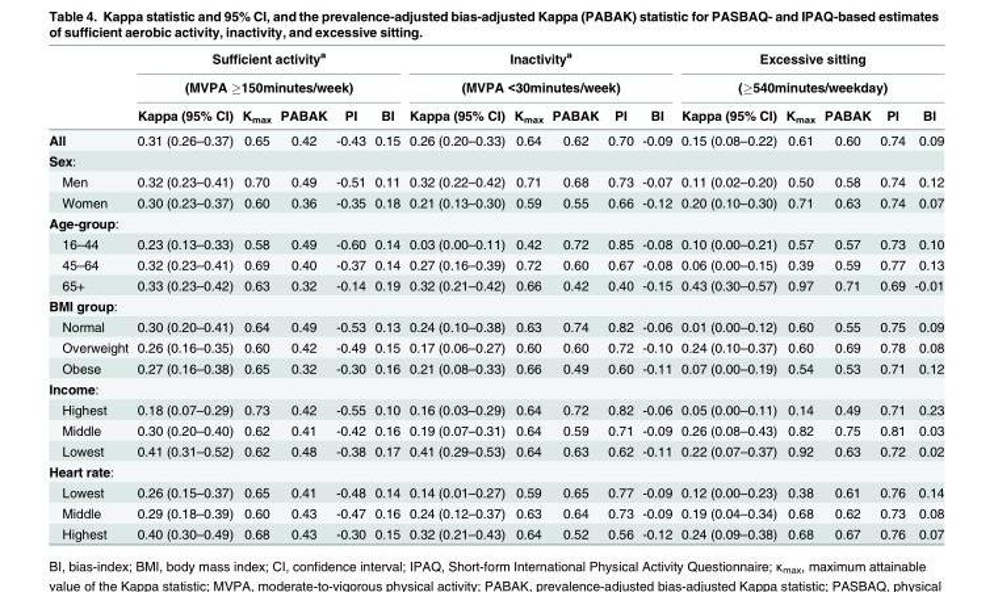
<table><thead><tr><td rowspan="3"></td><td rowspan="2" colspan="5">Sufficient activity<sup>a</sup> (MVPA ≥150minutes/week)</td><td rowspan="2" colspan="5">Inactivity<sup>a</sup> (MVPA &lt;30minutes/week)</td><td rowspan="2" colspan="5">Excessive sitting (≥540minutes/weekday)</td></tr><tr></tr><tr><td>Kappa (95% CI)</td><td>K<sub>max</sub></td><td>PABAK</td><td>PI</td><td>BI</td><td>Kappa (95% CI)</td><td>K<sub>max</sub></td><td>PABAK</td><td>PI</td><td>BI</td><td>Kappa (95% CI)</td><td>K<sub>max</sub></td><td>PABAK</td><td>PI</td><td>BI</td></tr></thead><tbody><tr><td>All</td><td>0.31 (0.26–0.37)</td><td>0.65</td><td>0.42</td><td>-0.43</td><td>0.15</td><td>0.26 (0.20–0.33)</td><td>0.64</td><td>0.62</td><td>0.70</td><td>-0.09</td><td>0.15 (0.08–0.22)</td><td>0.61</td><td>0.60</td><td>0.74</td><td>0.09</td></tr><tr><td colspan="16">Sex:</td></tr><tr><td>Men</td><td>0.32 (0.23–0.41)</td><td>0.70</td><td>0.49</td><td>-0.51</td><td>0.11</td><td>0.32 (0.22–0.42)</td><td>0.71</td><td>0.68</td><td>0.73</td><td>-0.07</td><td>0.11 (0.02–0.20)</td><td>0.50</td><td>0.58</td><td>0.74</td><td>0.12</td></tr><tr><td>Women</td><td>0.30 (0.23–0.37)</td><td>0.60</td><td>0.36</td><td>-0.35</td><td>0.18</td><td>0.21 (0.13–0.30)</td><td>0.59</td><td>0.55</td><td>0.66</td><td>-0.12</td><td>0.20 (0.10–0.30)</td><td>0.71</td><td>0.63</td><td>0.74</td><td>0.07</td></tr><tr><td colspan="16">Age-group:</td></tr><tr><td>16–44</td><td>0.23 (0.13–0.33)</td><td>0.58</td><td>0.49</td><td>-0.60</td><td>0.14</td><td>0.03 (0.00–0.11)</td><td>0.42</td><td>0.72</td><td>0.85</td><td>-0.08</td><td>0.10 (0.00–0.21)</td><td>0.57</td><td>0.57</td><td>0.73</td><td>0.10</td></tr><tr><td>45–64</td><td>0.32 (0.23–0.41)</td><td>0.69</td><td>0.40</td><td>-0.37</td><td>0.14</td><td>0.27 (0.16–0.39)</td><td>0.72</td><td>0.60</td><td>0.67</td><td>-0.08</td><td>0.06 (0.00–0.15)</td><td>0.39</td><td>0.59</td><td>0.77</td><td>0.13</td></tr><tr><td>65+</td><td>0.33 (0.23–0.42)</td><td>0.63</td><td>0.32</td><td>-0.14</td><td>0.19</td><td>0.32 (0.21–0.42)</td><td>0.66</td><td>0.42</td><td>0.40</td><td>-0.15</td><td>0.43 (0.30–0.57)</td><td>0.97</td><td>0.71</td><td>0.69</td><td>-0.01</td></tr><tr><td colspan="16">BMI group:</td></tr><tr><td>Normal</td><td>0.30 (0.20–0.41)</td><td>0.64</td><td>0.49</td><td>-0.53</td><td>0.13</td><td>0.24 (0.10–0.38)</td><td>0.63</td><td>0.74</td><td>0.82</td><td>-0.06</td><td>0.01 (0.00–0.12)</td><td>0.60</td><td>0.55</td><td>0.75</td><td>0.09</td></tr><tr><td>Overweight</td><td>0.26 (0.16–0.35)</td><td>0.60</td><td>0.42</td><td>-0.49</td><td>0.15</td><td>0.17 (0.06–0.27)</td><td>0.60</td><td>0.60</td><td>0.72</td><td>-0.10</td><td>0.24 (0.10–0.37)</td><td>0.60</td><td>0.69</td><td>0.78</td><td>0.08</td></tr><tr><td>Obese</td><td>0.27 (0.16–0.38)</td><td>0.65</td><td>0.32</td><td>-0.30</td><td>0.16</td><td>0.21 (0.08–0.33)</td><td>0.66</td><td>0.49</td><td>0.60</td><td>-0.11</td><td>0.07 (0.00–0.19)</td><td>0.54</td><td>0.53</td><td>0.71</td><td>0.12</td></tr><tr><td colspan="16">Income:</td></tr><tr><td>Highest</td><td>0.18 (0.07–0.29)</td><td>0.73</td><td>0.42</td><td>-0.55</td><td>0.10</td><td>0.16 (0.03–0.29)</td><td>0.64</td><td>0.72</td><td>0.82</td><td>-0.06</td><td>0.05 (0.00–0.11)</td><td>0.14</td><td>0.49</td><td>0.71</td><td>0.23</td></tr><tr><td>Middle</td><td>0.30 (0.20–0.40)</td><td>0.62</td><td>0.41</td><td>-0.42</td><td>0.16</td><td>0.19 (0.07–0.31)</td><td>0.64</td><td>0.59</td><td>0.71</td><td>-0.09</td><td>0.26 (0.08–0.43)</td><td>0.82</td><td>0.75</td><td>0.81</td><td>0.03</td></tr><tr><td>Lowest</td><td>0.41 (0.31–0.52)</td><td>0.62</td><td>0.48</td><td>-0.38</td><td>0.17</td><td>0.41 (0.29–0.53)</td><td>0.64</td><td>0.63</td><td>0.62</td><td>-0.11</td><td>0.22 (0.07–0.37)</td><td>0.92</td><td>0.63</td><td>0.72</td><td>0.02</td></tr><tr><td colspan="16">Heart rate:</td></tr><tr><td>Lowest</td><td>0.26 (0.15–0.37)</td><td>0.65</td><td>0.41</td><td>-0.48</td><td>0.14</td><td>0.14 (0.01–0.27)</td><td>0.59</td><td>0.65</td><td>0.77</td><td>-0.09</td><td>0.12 (0.00–0.23)</td><td>0.38</td><td>0.61</td><td>0.76</td><td>0.14</td></tr><tr><td>Middle</td><td>0.29 (0.18–0.39)</td><td>0.60</td><td>0.43</td><td>-0.47</td><td>0.16</td><td>0.24 (0.12–0.37)</td><td>0.63</td><td>0.64</td><td>0.73</td><td>-0.09</td><td>0.19 (0.04–0.34)</td><td>0.68</td><td>0.62</td><td>0.73</td><td>0.08</td></tr><tr><td>Highest</td><td>0.40 (0.30–0.49)</td><td>0.68</td><td>0.43</td><td>-0.30</td><td>0.15</td><td>0.32 (0.21–0.43)</td><td>0.64</td><td>0.52</td><td>0.56</td><td>-0.12</td><td>0.24 (0.09–0.38)</td><td>0.68</td><td>0.67</td><td>0.76</td><td>0.07</td></tr></tbody></table>